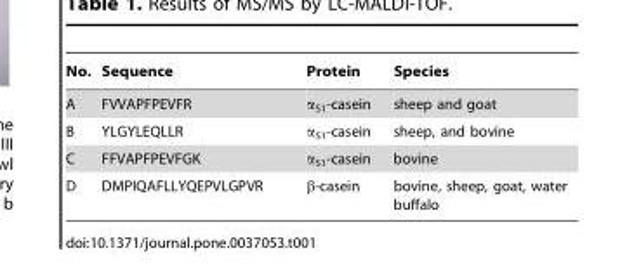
<table><thead><tr><td>No.</td><td>Sequence</td><td>Protein</td><td>Species</td></tr></thead><tbody><tr><td>A</td><td>FVVAPFPEVFR</td><td>α<sub>S1</sub>-casein</td><td>sheep and goat</td></tr><tr><td>B</td><td>YLGYLEQLLR</td><td>α<sub>S1</sub>-casein</td><td>sheep, and bovine</td></tr><tr><td>C</td><td>FFVAPFPEVFGK</td><td>α<sub>S1</sub>-casein</td><td>bovine</td></tr><tr><td>D</td><td>DMPIQAFLLYQEPVLGPVR</td><td>β-casein</td><td>bovine, sheep, goat, water buffalo</td></tr></tbody></table>